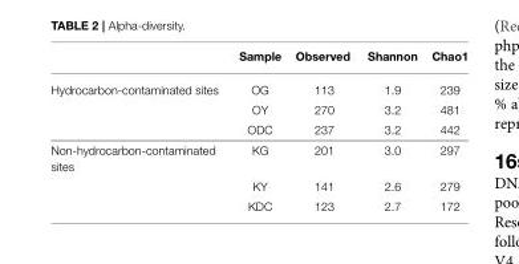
<table><thead><tr><td></td><td>Sample</td><td>Observed</td><td>Shannon</td><td>Chao1</td></tr></thead><tbody><tr><td rowspan="3">Hydrocarbon-contaminated sites</td><td>OG</td><td>113</td><td>1.9</td><td>239</td></tr><tr><td>OY</td><td>270</td><td>3.2</td><td>481</td></tr><tr><td>ODC</td><td>237</td><td>3.2</td><td>442</td></tr><tr><td rowspan="3">Non-hydrocarbon-contaminated sites</td><td>KG</td><td>201</td><td>3.0</td><td>297</td></tr><tr><td>KY</td><td>141</td><td>2.6</td><td>279</td></tr><tr><td>KDC</td><td>123</td><td>2.7</td><td>172</td></tr></tbody></table>